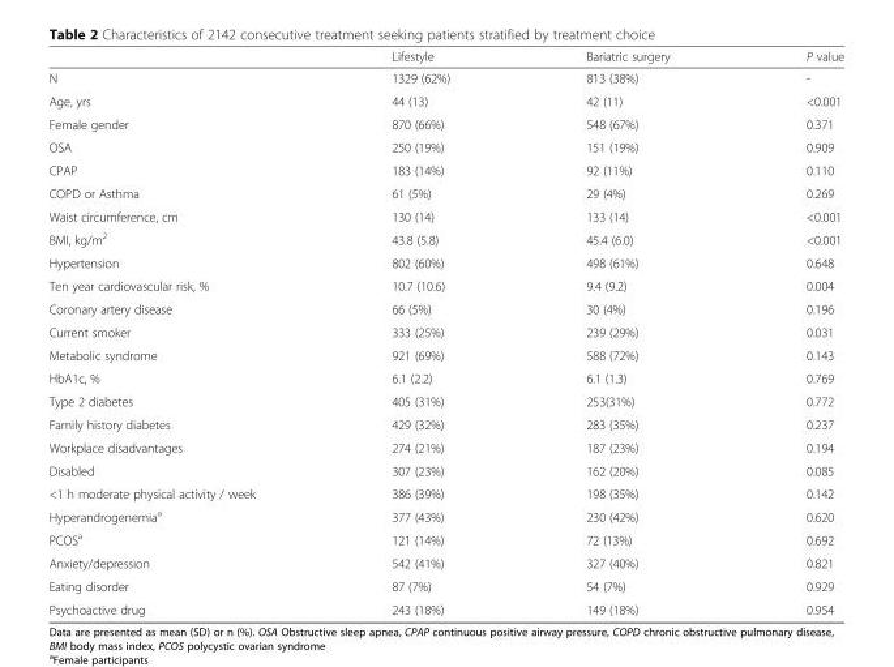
<table><thead><tr><td></td><td>Lifestyle</td><td>Bariatric surgery</td><td>P value</td></tr></thead><tbody><tr><td>N</td><td>1329 (62%)</td><td>813 (38%)</td><td>-</td></tr><tr><td>Age, yrs</td><td>44 (13)</td><td>42 (11)</td><td>&lt;0.001</td></tr><tr><td>Female gender</td><td>870 (66%)</td><td>548 (67%)</td><td>0.371</td></tr><tr><td>OSA</td><td>250 (19%)</td><td>151 (19%)</td><td>0.909</td></tr><tr><td>CPAP</td><td>183 (14%)</td><td>92 (11%)</td><td>0.110</td></tr><tr><td>COPD or Asthma</td><td>61 (5%)</td><td>29 (4%)</td><td>0.269</td></tr><tr><td>Waist circumference, cm</td><td>130 (14)</td><td>133 (14)</td><td>&lt;0.001</td></tr><tr><td>BMI, kg/m<sup>2</sup></td><td>43.8 (5.8)</td><td>45.4 (6.0)</td><td>&lt;0.001</td></tr><tr><td>Hypertension</td><td>802 (60%)</td><td>498 (61%)</td><td>0.648</td></tr><tr><td>Ten year cardiovascular risk, %</td><td>10.7 (10.6)</td><td>9.4 (9.2)</td><td>0.004</td></tr><tr><td>Coronary artery disease</td><td>66 (5%)</td><td>30 (4%)</td><td>0.196</td></tr><tr><td>Current smoker</td><td>333 (25%)</td><td>239 (29%)</td><td>0.031</td></tr><tr><td>Metabolic syndrome</td><td>921 (69%)</td><td>588 (72%)</td><td>0.143</td></tr><tr><td>HbA1c, %</td><td>6.1 (2.2)</td><td>6.1 (1.3)</td><td>0.769</td></tr><tr><td>Type 2 diabetes</td><td>405 (31%)</td><td>253(31%)</td><td>0.772</td></tr><tr><td>Family history diabetes</td><td>429 (32%)</td><td>283 (35%)</td><td>0.237</td></tr><tr><td>Workplace disadvantages</td><td>274 (21%)</td><td>187 (23%)</td><td>0.194</td></tr><tr><td>Disabled</td><td>307 (23%)</td><td>162 (20%)</td><td>0.085</td></tr><tr><td>&lt;1 h moderate physical activity / week</td><td>386 (39%)</td><td>198 (35%)</td><td>0.142</td></tr><tr><td>Hyperandrogenemia<sup>a</sup></td><td>377 (43%)</td><td>230 (42%)</td><td>0.620</td></tr><tr><td>PCOS<sup>a</sup></td><td>121 (14%)</td><td>72 (13%)</td><td>0.692</td></tr><tr><td>Anxiety/depression</td><td>542 (41%)</td><td>327 (40%)</td><td>0.821</td></tr><tr><td>Eating disorder</td><td>87 (7%)</td><td>54 (7%)</td><td>0.929</td></tr><tr><td>Psychoactive drug</td><td>243 (18%)</td><td>149 (18%)</td><td>0.954</td></tr></tbody></table>